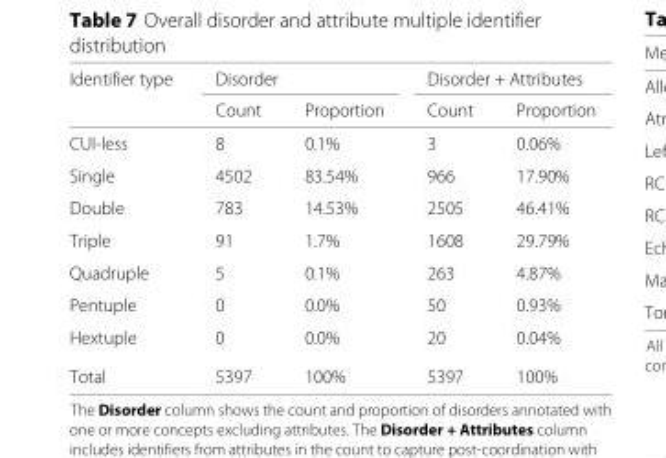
<table><thead><tr><td rowspan="2">Identifier type</td><td colspan="2">Disorder</td><td colspan="2">Disorder + Attributes</td></tr><tr><td>Count</td><td>Proportion</td><td>Count</td><td>Proportion</td></tr></thead><tbody><tr><td>CUI-less</td><td>8</td><td>0.1%</td><td>3</td><td>0.06%</td></tr><tr><td>Single</td><td>4502</td><td>83.54%</td><td>966</td><td>17.90%</td></tr><tr><td>Double</td><td>783</td><td>14.53%</td><td>2505</td><td>46.41%</td></tr><tr><td>Triple</td><td>91</td><td>1.7%</td><td>1608</td><td>29.79%</td></tr><tr><td>Quadruple</td><td>5</td><td>0.1%</td><td>263</td><td>4.87%</td></tr><tr><td>Pentuple</td><td>0</td><td>0.0%</td><td>50</td><td>0.93%</td></tr><tr><td>Hextuple</td><td>0</td><td>0.0%</td><td>20</td><td>0.04%</td></tr><tr><td>Total</td><td>5397</td><td>100%</td><td>5397</td><td>100%</td></tr></tbody></table>